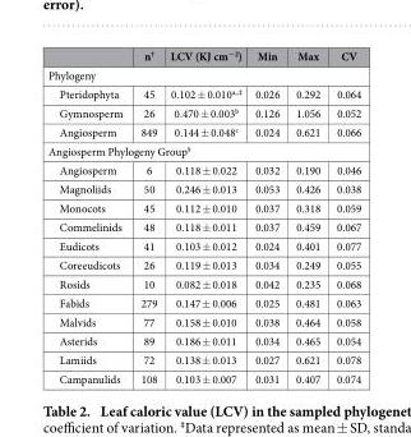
<table><thead><tr><td></td><td>n†</td><td>LCV (KJ cm<sup>−2</sup>)</td><td>Min</td><td>Max</td><td>CV</td></tr></thead><tbody><tr><td colspan="6">Phylogeny</td></tr><tr><td>Pteridophyta</td><td>45</td><td>0.102 ± 0.010<sup>a,,</sup>‡</td><td>0.026</td><td>0.292</td><td>0.064</td></tr><tr><td>Gymnosperm</td><td>26</td><td>0.470 ± 0.003<sup>b</sup></td><td>0.126</td><td>1.056</td><td>0.052</td></tr><tr><td>Angiosperm</td><td>849</td><td>0.144 ± 0.048<sup>c</sup></td><td>0.024</td><td>0.621</td><td>0.066</td></tr><tr><td colspan="6">Angiosperm Phylogeny Group§</td></tr><tr><td>Angiosperm</td><td>6</td><td>0.118 ± 0.022</td><td>0.032</td><td>0.190</td><td>0.046</td></tr><tr><td>Magnoliids</td><td>50</td><td>0.246 ± 0.013</td><td>0.053</td><td>0.426</td><td>0.038</td></tr><tr><td>Monocots</td><td>45</td><td>0.112 ± 0.010</td><td>0.037</td><td>0.318</td><td>0.059</td></tr><tr><td>Commelinids</td><td>48</td><td>0.118 ± 0.011</td><td>0.037</td><td>0.459</td><td>0.067</td></tr><tr><td>Eudicots</td><td>41</td><td>0.103 ± 0.012</td><td>0.024</td><td>0.401</td><td>0.077</td></tr><tr><td>Coreeudicots</td><td>26</td><td>0.119 ± 0.013</td><td>0.034</td><td>0.249</td><td>0.055</td></tr><tr><td>Rosids</td><td>10</td><td>0.082 ± 0.018</td><td>0.042</td><td>0.235</td><td>0.068</td></tr><tr><td>Fabids</td><td>279</td><td>0.147 ± 0.006</td><td>0.025</td><td>0.481</td><td>0.063</td></tr><tr><td>Malvids</td><td>77</td><td>0.158 ± 0.010</td><td>0.038</td><td>0.464</td><td>0.058</td></tr><tr><td>Asterids</td><td>89</td><td>0.186 ± 0.011</td><td>0.034</td><td>0.465</td><td>0.054</td></tr><tr><td>Lamiids</td><td>72</td><td>0.138 ± 0.013</td><td>0.027</td><td>0.621</td><td>0.078</td></tr><tr><td>Campanulids</td><td>108</td><td>0.103 ± 0.007</td><td>0.031</td><td>0.407</td><td>0.074</td></tr></tbody></table>